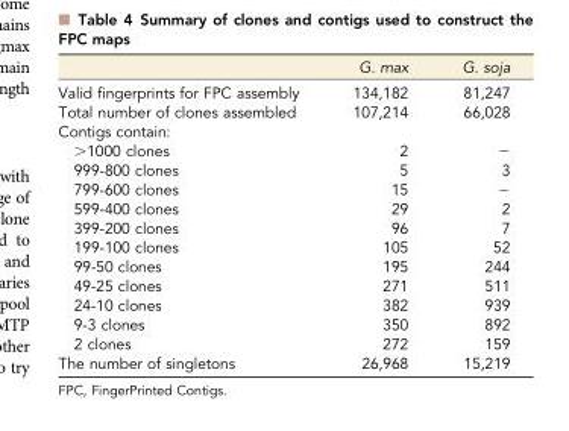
<table><thead><tr><td></td><td>G. max</td><td>G. soja</td></tr></thead><tbody><tr><td>Valid fingerprints for FPC assembly</td><td>134,182</td><td>81,247</td></tr><tr><td>Total number of clones assembled</td><td>107,214</td><td>66,028</td></tr><tr><td colspan="3">Contigs contain:</td></tr><tr><td>&gt;1000 clones</td><td>2</td><td>−</td></tr><tr><td>999-800 clones</td><td>5</td><td>3</td></tr><tr><td>799-600 clones</td><td>15</td><td>−</td></tr><tr><td>599-400 clones</td><td>29</td><td>2</td></tr><tr><td>399-200 clones</td><td>96</td><td>7</td></tr><tr><td>199-100 clones</td><td>105</td><td>52</td></tr><tr><td>99-50 clones</td><td>195</td><td>244</td></tr><tr><td>49-25 clones</td><td>271</td><td>511</td></tr><tr><td>24-10 clones</td><td>382</td><td>939</td></tr><tr><td>9-3 clones</td><td>350</td><td>892</td></tr><tr><td>2 clones</td><td>272</td><td>159</td></tr><tr><td>The number of singletons</td><td>26,968</td><td>15,219</td></tr></tbody></table>